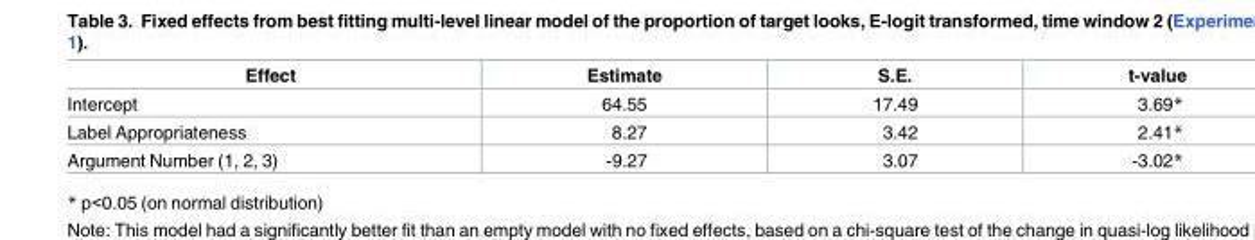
<table><thead><tr><td>Effect</td><td>Estimate</td><td>S.E.</td><td>t-value</td></tr></thead><tbody><tr><td>Intercept</td><td>64.55</td><td>17.49</td><td>3.69*</td></tr><tr><td>Label Appropriateness</td><td>8.27</td><td>3.42</td><td>2.41*</td></tr><tr><td>Argument Number (1, 2, 3)</td><td>-9.27</td><td>3.07</td><td>-3.02*</td></tr></tbody></table>